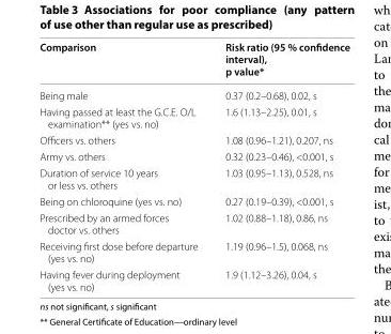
<table><thead><tr><td>Comparison</td><td>Risk ratio (95 % confidence interval), p value*</td></tr></thead><tbody><tr><td>Being male</td><td>0.37 (0.2–0.68), 0.02, s</td></tr><tr><td>Having passed at least the G.C.E. O/L examination** (yes vs. no)</td><td>1.6 (1.13–2.25), 0.01, s</td></tr><tr><td>Officers vs. others</td><td>1.08 (0.96–1.21), 0.207, ns</td></tr><tr><td>Army vs. others</td><td>0.32 (0.23–0.46), &lt;0.001, s</td></tr><tr><td>Duration of service 10 years or less vs. others</td><td>1.03 (0.95–1.13), 0.528, ns</td></tr><tr><td>Being on chloroquine (yes vs. no)</td><td>0.27 (0.19–0.39), &lt;0.001, s</td></tr><tr><td>Prescribed by an armed forces doctor vs. others</td><td>1.02 (0.88–1.18), 0.86, ns</td></tr><tr><td>Receiving first dose before departure (yes vs. no)</td><td>1.19 (0.96–1.5), 0.068, ns</td></tr><tr><td>Having fever during deployment (yes vs. no)</td><td>1.9 (1.12–3.26), 0.04, s</td></tr></tbody></table>